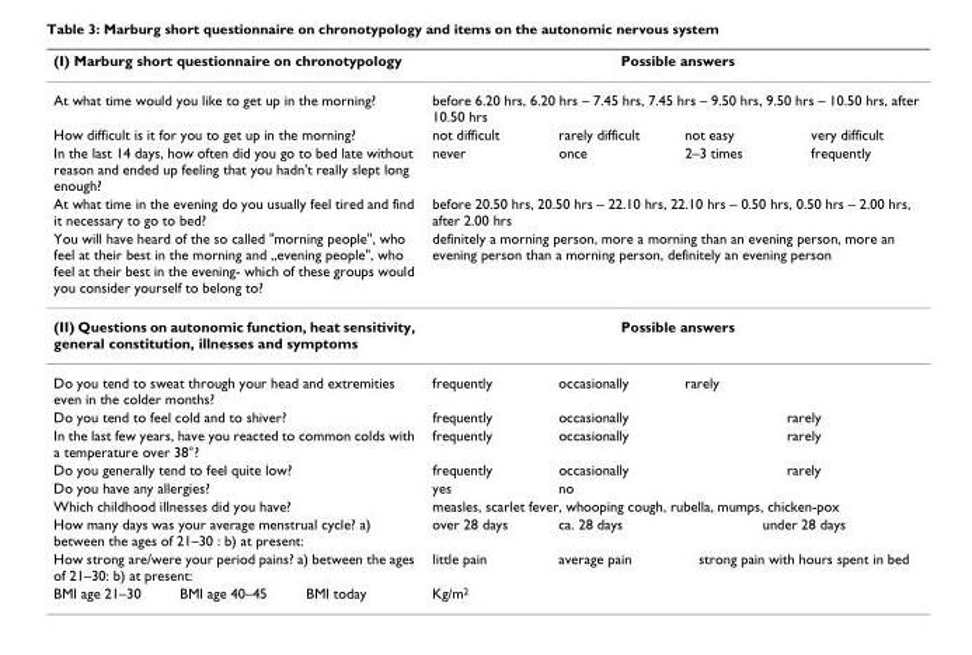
<table><thead><tr><td colspan="3">(I) Marburg short questionnaire on chronotypology</td><td colspan="4">Possible answers</td></tr></thead><tbody><tr><td colspan="3">At what time would you like to get up in the morning?</td><td colspan="4">before 6.20 hrs, 6.20 hrs – 7.45 hrs, 7.45 hrs – 9.50 hrs, 9.50 hrs – 10.50 hrs, after 10.50 hrs</td></tr><tr><td colspan="3">How difficult is it for you to get up in the morning?</td><td>not difficult</td><td>rarely difficult</td><td>not easy</td><td>very difficult</td></tr><tr><td colspan="3">In the last 14 days, how often did you go to bed late without reason and ended up feeling that you hadn&#x27;t really slept long enough?</td><td>never</td><td>once</td><td>2–3 times</td><td>frequently</td></tr><tr><td colspan="3">At what time in the evening do you usually feel tired and find it necessary to go to bed?</td><td colspan="4">before 20.50 hrs, 20.50 hrs – 22.10 hrs, 22.10 hrs – 0.50 hrs, 0.50 hrs – 2.00 hrs, after 2.00 hrs</td></tr><tr><td colspan="3">You will have heard of the so called &quot;morning people&quot;, who feel at their best in the morning and „evening people&quot;, who feel at their best in the evening- which of these groups would you consider yourself to belong to?</td><td colspan="4">definitely a morning person, more a morning than an evening person, more an evening person than a morning person, definitely an evening person</td></tr><tr><td colspan="3">(II) Questions on autonomic function, heat sensitivity, general constitution, illnesses and symptoms</td><td colspan="4">Possible answers</td></tr><tr><td colspan="3">Do you tend to sweat through your head and extremities even in the colder months?</td><td>frequently</td><td>occasionally</td><td>rarely</td><td></td></tr><tr><td colspan="3">Do you tend to feel cold and to shiver?</td><td>frequently</td><td>occasionally</td><td colspan="2">rarely</td></tr><tr><td colspan="3">In the last few years, have you reacted to common colds with a temperature over 38°?</td><td>frequently</td><td>occasionally</td><td colspan="2">rarely</td></tr><tr><td colspan="3">Do you generally tend to feel quite low?</td><td>frequently</td><td>occasionally</td><td colspan="2">rarely</td></tr><tr><td colspan="3">Do you have any allergies?</td><td>yes</td><td>no</td><td></td><td></td></tr><tr><td colspan="3">Which childhood illnesses did you have?</td><td colspan="4">measles, scarlet fever, whooping cough, rubella, mumps, chicken-pox</td></tr><tr><td colspan="3">How many days was your average menstrual cycle? a) between the ages of 21–30 : b) at present:</td><td>over 28 days</td><td>ca. 28 days</td><td colspan="2">under 28 days</td></tr><tr><td colspan="3">How strong are/were your period pains? a) between the ages of 21–30: b) at present:</td><td>little pain</td><td>average pain</td><td colspan="2">strong pain with hours spent in bed</td></tr><tr><td>BMI age 21–30</td><td>BMI age 40–45</td><td>BMI today</td><td>Kg/m<sup>2</sup></td><td></td><td></td><td></td></tr></tbody></table>